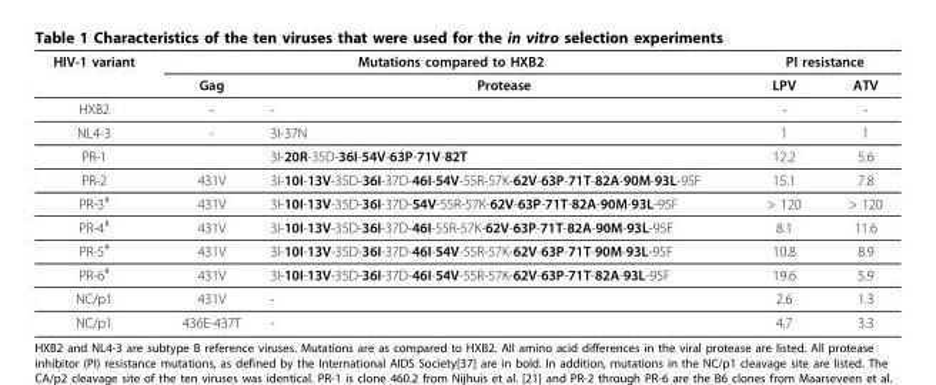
<table><thead><tr><td rowspan="2">HIV-1 variant</td><td colspan="2">Mutations compared to HXB2</td><td colspan="2">PI resistance</td></tr><tr><td>Gag</td><td>Protease</td><td>LPV</td><td>ATV</td></tr></thead><tbody><tr><td>HXB2</td><td>-</td><td>-</td><td>-</td><td>-</td></tr><tr><td>NL4-3</td><td>-</td><td>3I-37N</td><td>1</td><td>1</td></tr><tr><td>PR-1</td><td></td><td>3I-20R-35D-36I-54V-63P-71V-82T</td><td>12.2</td><td>5.6</td></tr><tr><td>PR-2</td><td>431V</td><td>3I-10I-13V-35D-36I-37D-46I-54V-55R-57K-62V-63P-71T-82A-90M-93L-95F</td><td>15.1</td><td>7.8</td></tr><tr><td>PR-3<sup>#</sup></td><td>431V</td><td>3I-10I-13V-35D-36I-37D-54V-55R-57K-62V-63P-71T-82A-90M-93L-95F</td><td>&gt; 120</td><td>&gt; 120</td></tr><tr><td>PR-4<sup>#</sup></td><td>431V</td><td>3I-10I-13V-35D-36I-37D-46I-55R-57K-62V-63P-71T-82A-90M-93L-95F</td><td>8.1</td><td>11.6</td></tr><tr><td>PR-5<sup>#</sup></td><td>431V</td><td>3I-10I-13V-35D-36I-37D-46I-54V-55R-57K-62V-63P-71T-90M-93L-95F</td><td>10.8</td><td>8.9</td></tr><tr><td>PR-6<sup>#</sup></td><td>431V</td><td>3I-10I-13V-35D-36I-37D-46I-54V-55R-57K-62V-63P-71T-82A-93L-95F</td><td>19.6</td><td>5.9</td></tr><tr><td>NC/p1</td><td>431V</td><td>-</td><td>2.6</td><td>1.3</td></tr><tr><td>NC/p1</td><td>436E-437T</td><td>-</td><td>4.7</td><td>3.3</td></tr></tbody></table>